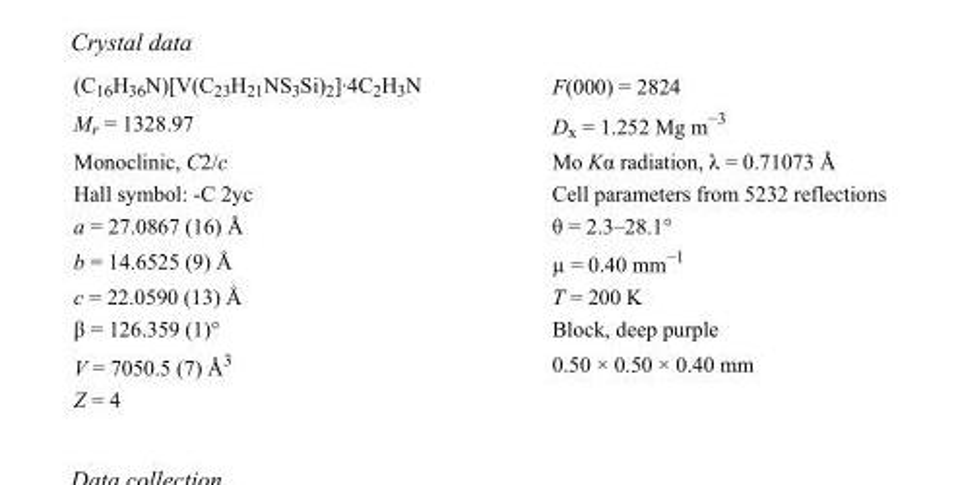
<table><tbody><tr><td>(C<sub>16</sub>H<sub>36</sub>N)[V(C<sub>23</sub>H<sub>21</sub>NS<sub>3</sub>Si)<sub>2</sub>]·4C<sub>2</sub>H<sub>3</sub>N</td><td>F(000) = 2824</td></tr><tr><td>M<sub>r</sub> = 1328.97</td><td>D<sub>x</sub> = 1.252 Mg m<sup>−3</sup></td></tr><tr><td>Monoclinic, C2/c</td><td>Mo Kα radiation, λ = 0.71073 Å</td></tr><tr><td>Hall symbol: -C 2yc</td><td>Cell parameters from 5232 reflections</td></tr><tr><td>a = 27.0867 (16) Å</td><td>θ = 2.3–28.1°</td></tr><tr><td>b = 14.6525 (9) Å</td><td>µ = 0.40 mm<sup>−1</sup></td></tr><tr><td>c = 22.0590 (13) Å</td><td>T = 200 K</td></tr><tr><td>β = 126.359 (1)°</td><td>Block, deep purple</td></tr><tr><td>V = 7050.5 (7) Å<sup>3</sup></td><td>0.50 × 0.50 × 0.40 mm</td></tr><tr><td>Z = 4</td><td></td></tr></tbody></table>